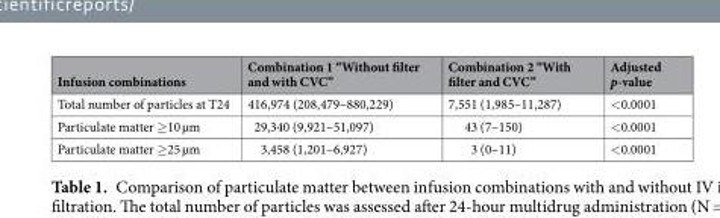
<table><thead><tr><td>Infusion combinations</td><td>Combination 1 “Without filter and with CVC”</td><td>Combination 2 “With filter and CVC”</td><td>Adjusted p-value</td></tr></thead><tbody><tr><td>Total number of particles at T24</td><td>416,974 (208,479–880,229)</td><td>7,551 (1,985–11,287)</td><td>&lt;0.0001</td></tr><tr><td>Particulate matter ≥10 µm</td><td>29,340 (9,921–51,097)</td><td>43 (7–150)</td><td>&lt;0.0001</td></tr><tr><td>Particulate matter ≥25 µm</td><td>3,458 (1,201–6,927)</td><td>3 (0–11)</td><td>&lt;0.0001</td></tr></tbody></table>